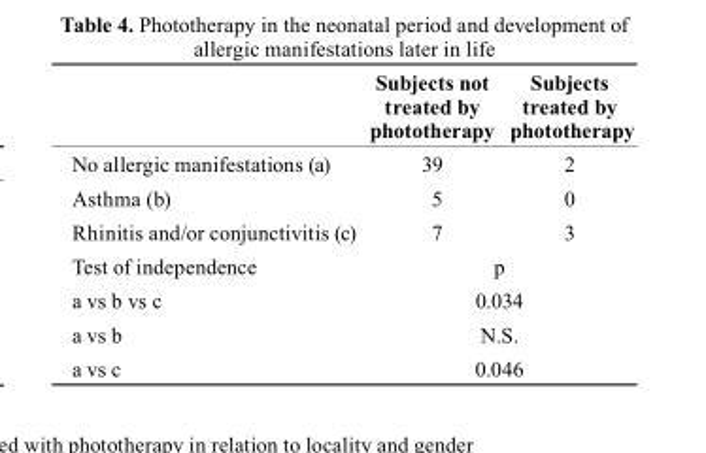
<table><thead><tr><td></td><td>subjects not treated by phototherapy</td><td>subjects treated by phototherapy</td></tr></thead><tbody><tr><td>No allergic manifestations (a)</td><td>39</td><td>2</td></tr><tr><td>Asthma (b)</td><td>5</td><td>0</td></tr><tr><td>Rhinitis and/or conjunctivitis (c)</td><td>7</td><td>3</td></tr><tr><td>Test of independence</td><td colspan="2">p</td></tr><tr><td>a vs b vs c</td><td colspan="2">0.034</td></tr><tr><td>a vs b</td><td colspan="2">N.S.</td></tr><tr><td>a vs c</td><td colspan="2">0.046</td></tr></tbody></table>